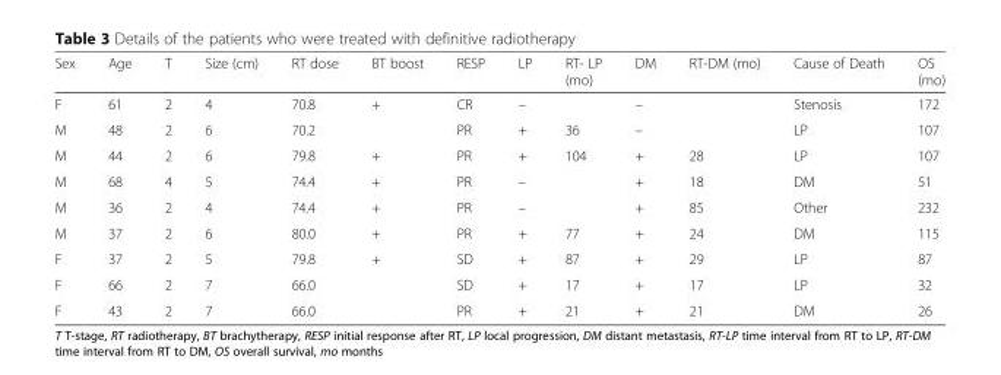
<table><thead><tr><td>Sex</td><td>Age</td><td>T</td><td>Size (cm)</td><td>RT dose</td><td>BT boost</td><td>RESP</td><td>LP</td><td>RT- LP (mo)</td><td>DM</td><td>RT-DM (mo)</td><td>Cause of Death</td><td>OS (mo)</td></tr></thead><tbody><tr><td>F</td><td>61</td><td>2</td><td>4</td><td>70.8</td><td>+</td><td>CR</td><td>–</td><td></td><td>–</td><td></td><td>Stenosis</td><td>172</td></tr><tr><td>M</td><td>48</td><td>2</td><td>6</td><td>70.2</td><td></td><td>PR</td><td>+</td><td>36</td><td>–</td><td></td><td>LP</td><td>107</td></tr><tr><td>M</td><td>44</td><td>2</td><td>6</td><td>79.8</td><td>+</td><td>PR</td><td>+</td><td>104</td><td>+</td><td>28</td><td>LP</td><td>107</td></tr><tr><td>M</td><td>68</td><td>4</td><td>5</td><td>74.4</td><td>+</td><td>PR</td><td>–</td><td></td><td>+</td><td>18</td><td>DM</td><td>51</td></tr><tr><td>M</td><td>36</td><td>2</td><td>4</td><td>74.4</td><td>+</td><td>PR</td><td>–</td><td></td><td>+</td><td>85</td><td>Other</td><td>232</td></tr><tr><td>M</td><td>37</td><td>2</td><td>6</td><td>80.0</td><td>+</td><td>PR</td><td>+</td><td>77</td><td>+</td><td>24</td><td>DM</td><td>115</td></tr><tr><td>F</td><td>37</td><td>2</td><td>5</td><td>79.8</td><td>+</td><td>SD</td><td>+</td><td>87</td><td>+</td><td>29</td><td>LP</td><td>87</td></tr><tr><td>F</td><td>66</td><td>2</td><td>7</td><td>66.0</td><td></td><td>SD</td><td>+</td><td>17</td><td>+</td><td>17</td><td>LP</td><td>32</td></tr><tr><td>F</td><td>43</td><td>2</td><td>7</td><td>66.0</td><td></td><td>PR</td><td>+</td><td>21</td><td>+</td><td>21</td><td>DM</td><td>26</td></tr></tbody></table>